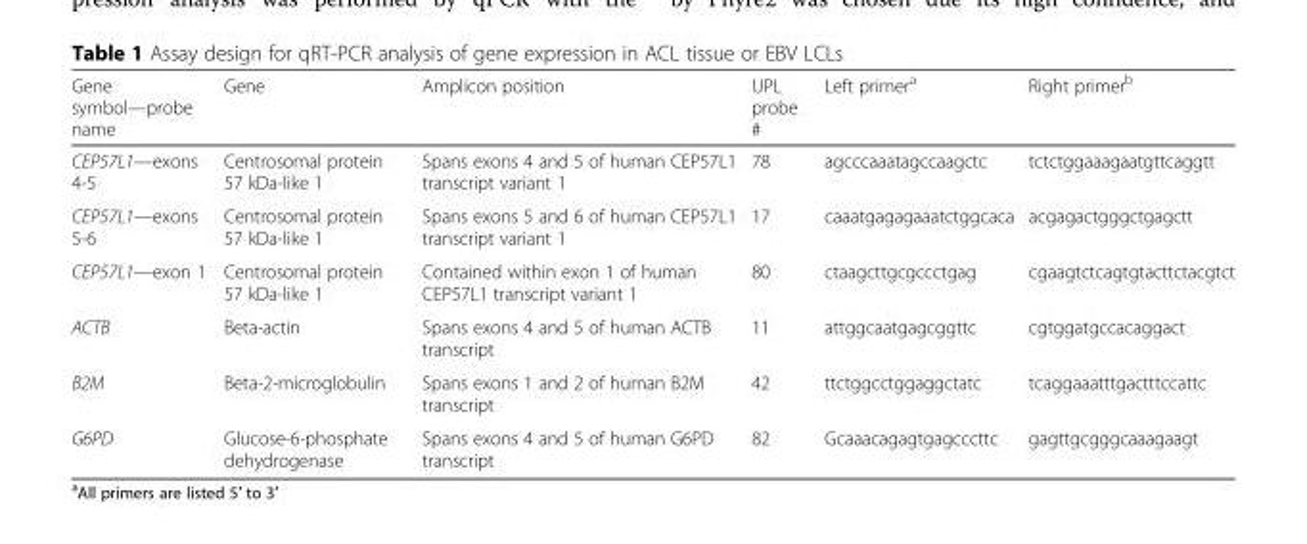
<table><thead><tr><td>Gene symbol—probe name</td><td>Gene</td><td>Amplicon position</td><td>UPL probe #</td><td>Left primer<sup>a</sup></td><td>Right primer<sup>b</sup></td></tr></thead><tbody><tr><td>CEP57L1—exons 4-5</td><td>Centrosomal protein 57 kDa-like 1</td><td>Spans exons 4 and 5 of human CEP57L1 transcript variant 1</td><td>78</td><td>agcccaaatagccaagctc</td><td>tctctggaaagaatgttcaggtt</td></tr><tr><td>CEP57L1—exons 5-6</td><td>Centrosomal protein 57 kDa-like 1</td><td>Spans exons 5 and 6 of human CEP57L1 transcript variant 1</td><td>17</td><td>caaatgagagaaatctggcaca</td><td>acgagactgggctgagctt</td></tr><tr><td>CEP57L1—exon 1</td><td>Centrosomal protein 57 kDa-like 1</td><td>Contained within exon 1 of human CEP57L1 transcript variant 1</td><td>80</td><td>ctaagcttgcgccctgag</td><td>cgaagtctcagtgtacttctacgtct</td></tr><tr><td>ACTB</td><td>Beta-actin</td><td>Spans exons 4 and 5 of human ACTB transcript</td><td>11</td><td>attggcaatgagcggttc</td><td>cgtggatgccacaggact</td></tr><tr><td>B2M</td><td>Beta-2-microglobulin</td><td>Spans exons 1 and 2 of human B2M transcript</td><td>42</td><td>ttctggcctggaggctatc</td><td>tcaggaaatttgactttccattc</td></tr><tr><td>G6PD</td><td>Glucose-6-phosphate dehydrogenase</td><td>Spans exons 4 and 5 of human G6PD transcript</td><td>82</td><td>Gcaaacagagtgagcccttc</td><td>gagttgcgggcaaagaagt</td></tr></tbody></table>